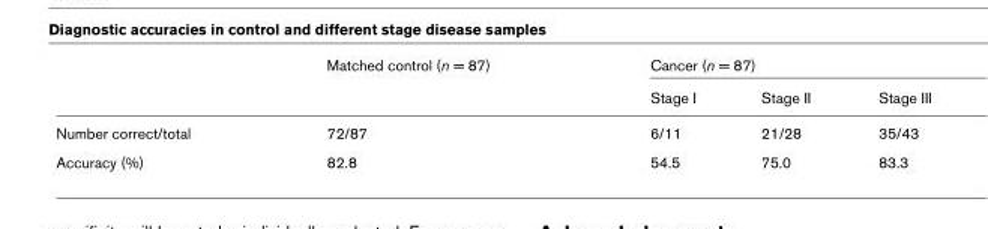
<table><thead><tr><td rowspan="2"></td><td rowspan="2">Matched control (n = 87)</td><td colspan="3">Cancer (n = 87)</td></tr><tr><td>Stage I</td><td>Stage II</td><td>Stage III</td></tr></thead><tbody><tr><td>Number correct/total</td><td>72/87</td><td>6/11</td><td>21/28</td><td>35/43</td></tr><tr><td>Accuracy (%)</td><td>82.8</td><td>54.5</td><td>75.0</td><td>83.3</td></tr></tbody></table>